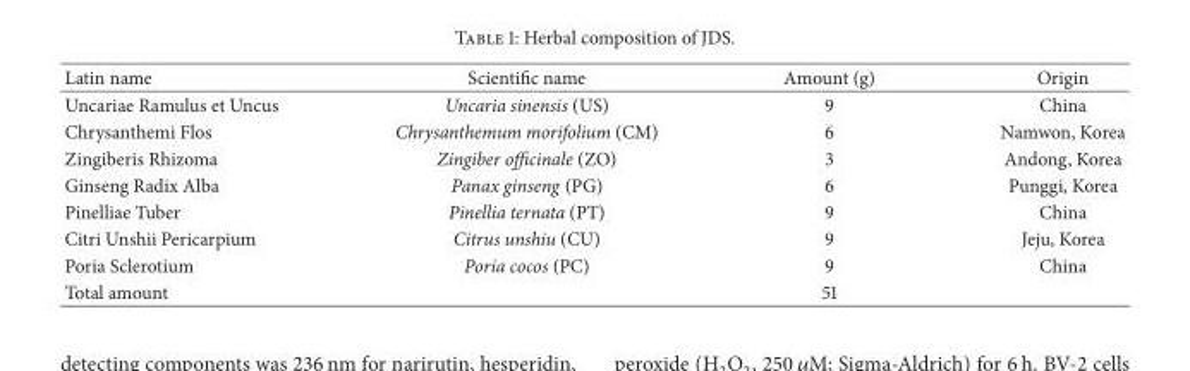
<table><thead><tr><td>Latin name</td><td>Scientific name</td><td>Amount (g)</td><td>Origin</td></tr></thead><tbody><tr><td>Uncariae Ramulus et Uncus</td><td>Uncaria sinensis (US)</td><td>9</td><td>China</td></tr><tr><td>Chrysanthemi Flos</td><td>Chrysanthemum morifolium (CM)</td><td>6</td><td>Namwon, Korea</td></tr><tr><td>Zingiberis Rhizoma</td><td>Zingiber officinale (ZO)</td><td>3</td><td>Andong, Korea</td></tr><tr><td>Ginseng Radix Alba</td><td>Panax ginseng (PG)</td><td>6</td><td>Punggi, Korea</td></tr><tr><td>Pinelliae Tuber</td><td>Pinellia ternata (PT)</td><td>9</td><td>China</td></tr><tr><td>Citri Unshii Pericarpium</td><td>Citrus unshiu (CU)</td><td>9</td><td>Jeju, Korea</td></tr><tr><td>Poria Sclerotium</td><td>Poria cocos (PC)</td><td>9</td><td>China</td></tr><tr><td>Total amount</td><td></td><td>51</td><td></td></tr></tbody></table>